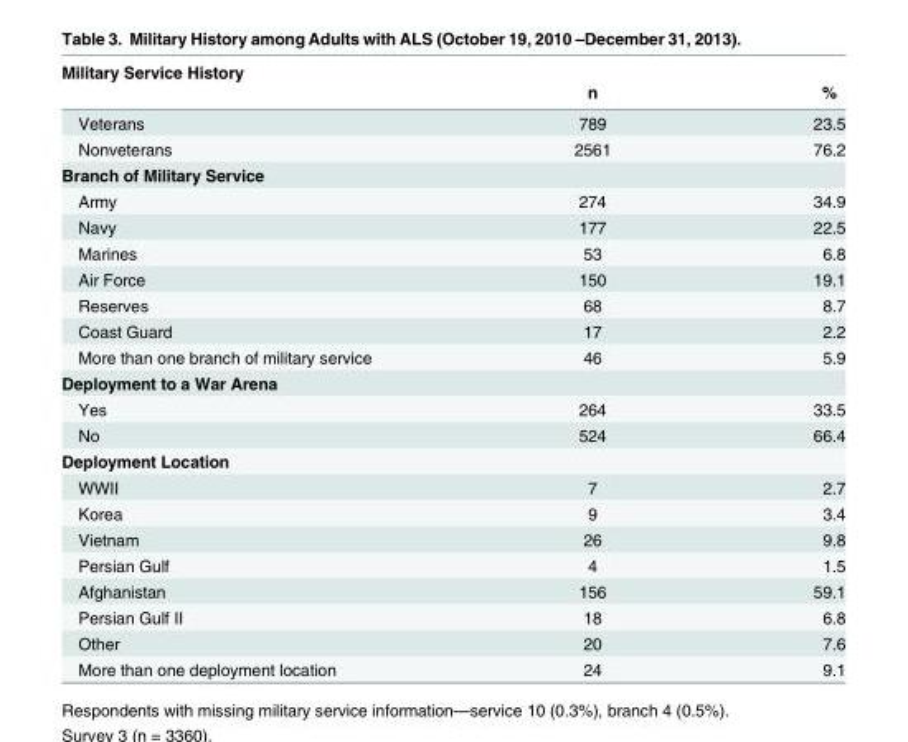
<table><thead><tr><td rowspan="2">Military Service History</td><td rowspan="2">n</td><td rowspan="2">%</td></tr><tr></tr></thead><tbody><tr><td>Veterans</td><td>789</td><td>23.5</td></tr><tr><td>Nonveterans</td><td>2561</td><td>76.2</td></tr><tr><td colspan="3">Branch of Military Service</td></tr><tr><td>Army</td><td>274</td><td>34.9</td></tr><tr><td>Navy</td><td>177</td><td>22.5</td></tr><tr><td>Marines</td><td>53</td><td>6.8</td></tr><tr><td>Air Force</td><td>150</td><td>19.1</td></tr><tr><td>Reserves</td><td>68</td><td>8.7</td></tr><tr><td>Coast Guard</td><td>17</td><td>2.2</td></tr><tr><td>More than one branch of military service</td><td>46</td><td>5.9</td></tr><tr><td colspan="3">Deployment to a War Arena</td></tr><tr><td>Yes</td><td>264</td><td>33.5</td></tr><tr><td>No</td><td>524</td><td>66.4</td></tr><tr><td colspan="3">Deployment Location</td></tr><tr><td>WWII</td><td>7</td><td>2.7</td></tr><tr><td>Korea</td><td>9</td><td>3.4</td></tr><tr><td>Vietnam</td><td>26</td><td>9.8</td></tr><tr><td>Persian Gulf</td><td>4</td><td>1.5</td></tr><tr><td>Afghanistan</td><td>156</td><td>59.1</td></tr><tr><td>Persian Gulf II</td><td>18</td><td>6.8</td></tr><tr><td>Other</td><td>20</td><td>7.6</td></tr><tr><td>More than one deployment location</td><td>24</td><td>9.1</td></tr></tbody></table>